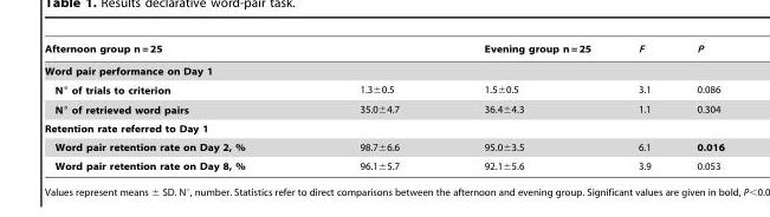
<table><thead><tr><td colspan="2">Afternoon group n = 25</td><td>Evening group n = 25</td><td>F</td><td>P</td></tr><tr><td colspan="5">Word pair performance on Day 1</td></tr><tr><td>N° of trials to criterion</td><td>1.3±0.5</td><td>1.5±0.5</td><td>3.1</td><td>0.086</td></tr></thead><tbody><tr><td>N° of retrieved word pairs</td><td>35.0±4.7</td><td>36.4±4.3</td><td>1.1</td><td>0.304</td></tr><tr><td colspan="5">Retention rate referred to Day 1</td></tr><tr><td>Word pair retention rate on Day 2, %</td><td>98.7±6.6</td><td>95.0±3.5</td><td>6.1</td><td>0.016</td></tr><tr><td>Word pair retention rate on Day 8, %</td><td>96.1±5.7</td><td>92.1±5.6</td><td>3.9</td><td>0.053</td></tr></tbody></table>